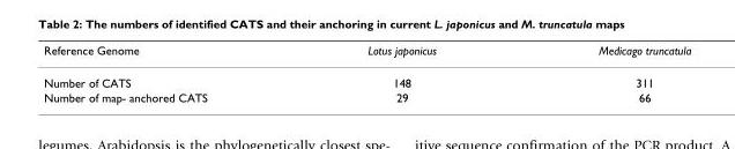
<table><thead><tr><td>Reference Genome</td><td>Lotus japonicus</td><td>Medicago truncatula</td></tr></thead><tbody><tr><td>Number of CATS</td><td>148</td><td>311</td></tr><tr><td>Number of map- anchored CATS</td><td>29</td><td>66</td></tr></tbody></table>